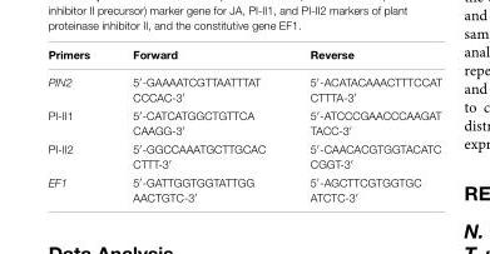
<table><thead><tr><td>Primers</td><td>Forward</td><td>Reverse</td></tr></thead><tbody><tr><td>PIN2</td><td>5′-GAAAATCGTTAATTTAT CCCAC-3′</td><td>5′-ACATACAAACTTTCCAT CTTTA-3′</td></tr><tr><td>PI-II1</td><td>5′-CATCATGGCTGTTCA CAAGG-3′</td><td>5′-ATCCCGAACCCAAGAT TACC-3′</td></tr><tr><td>PI-II2</td><td>5′-GGCCAAATGCTTGCAC CTTT-3′</td><td>5′-CAACACGTGGTACATC CGGT-3′</td></tr><tr><td>EF1</td><td>5′-GATTGGTGGTATTGG AACTGTC-3′</td><td>5′-AGCTTCGTGGTGC ATCTC-3′</td></tr></tbody></table>